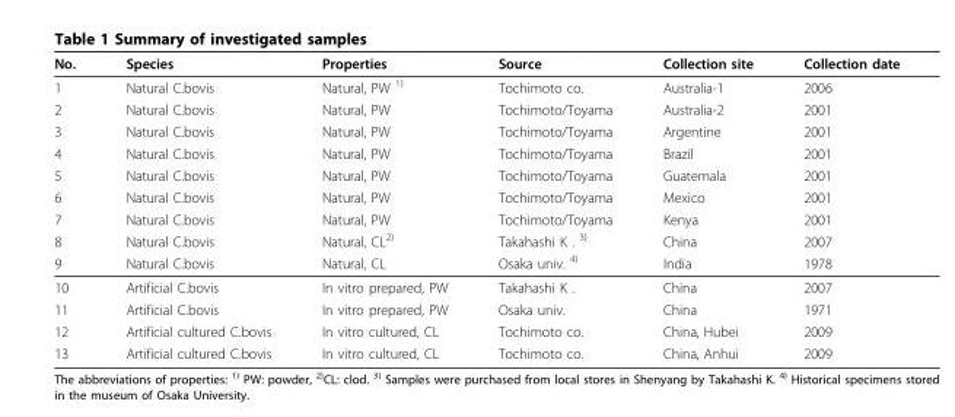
<table><thead><tr><td>No.</td><td>Species</td><td>Properties</td><td>Source</td><td>Collection site</td><td>Collection date</td></tr></thead><tbody><tr><td>1</td><td>Natural C.bovis</td><td>Natural, PW <sup>1)</sup></td><td>Tochimoto co.</td><td>Australia-1</td><td>2006</td></tr><tr><td>2</td><td>Natural C.bovis</td><td>Natural, PW</td><td>Tochimoto/Toyama</td><td>Australia-2</td><td>2001</td></tr><tr><td>3</td><td>Natural C.bovis</td><td>Natural, PW</td><td>Tochimoto/Toyama</td><td>Argentine</td><td>2001</td></tr><tr><td>4</td><td>Natural C.bovis</td><td>Natural, PW</td><td>Tochimoto/Toyama</td><td>Brazil</td><td>2001</td></tr><tr><td>5</td><td>Natural C.bovis</td><td>Natural, PW</td><td>Tochimoto/Toyama</td><td>Guatemala</td><td>2001</td></tr><tr><td>6</td><td>Natural C.bovis</td><td>Natural, PW</td><td>Tochimoto/Toyama</td><td>Mexico</td><td>2001</td></tr><tr><td>7</td><td>Natural C.bovis</td><td>Natural, PW</td><td>Tochimoto/Toyama</td><td>Kenya</td><td>2001</td></tr><tr><td>8</td><td>Natural C.bovis</td><td>Natural, CL<sup>2)</sup></td><td>Takahashi K . <sup>3)</sup></td><td>China</td><td>2007</td></tr><tr><td>9</td><td>Natural C.bovis</td><td>Natural, CL</td><td>Osaka univ. <sup>4)</sup></td><td>India</td><td>1978</td></tr><tr><td>10</td><td>Artificial C.bovis</td><td>In vitro prepared, PW</td><td>Takahashi K .</td><td>China</td><td>2007</td></tr><tr><td>11</td><td>Artificial C.bovis</td><td>In vitro prepared, PW</td><td>Osaka univ.</td><td>China</td><td>1971</td></tr><tr><td>12</td><td>Artificial cultured C.bovis</td><td>In vitro cultured, CL</td><td>Tochimoto co.</td><td>China, Hubei</td><td>2009</td></tr><tr><td>13</td><td>Artificial cultured C.bovis</td><td>In vitro cultured, CL</td><td>Tochimoto co.</td><td>China, Anhui</td><td>2009</td></tr></tbody></table>